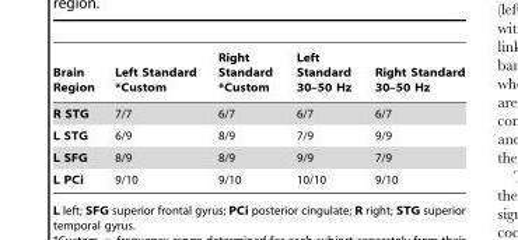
<table><thead><tr><td>Brain Region</td><td>Left Standard *Custom</td><td>Right Standard *Custom</td><td>Left Standard 30–50 Hz</td><td>Right Standard 30–50 Hz</td></tr></thead><tbody><tr><td>R STG</td><td>7/7</td><td>6/7</td><td>6/7</td><td>6/7</td></tr><tr><td>L STG</td><td>6/9</td><td>8/9</td><td>7/9</td><td>9/9</td></tr><tr><td>L SFG</td><td>8/9</td><td>8/9</td><td>9/9</td><td>7/9</td></tr><tr><td>L PCi</td><td>9/10</td><td>9/10</td><td>10/10</td><td>9/10</td></tr></tbody></table>